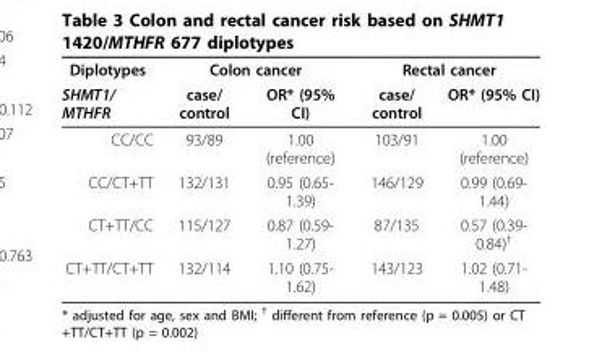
<table><thead><tr><td rowspan="2">Diplotypes SHMT1/ MTHFR</td><td colspan="2">Colon cancer</td><td colspan="2">Rectal cancer</td></tr><tr><td>case/ control</td><td>OR* (95% CI)</td><td>case/ control</td><td>OR* (95% CI)</td></tr></thead><tbody><tr><td>CC/CC</td><td>93/89</td><td>1.00 (reference)</td><td>103/91</td><td>1.00 (reference)</td></tr><tr><td>CC/CT+TT</td><td>132/131</td><td>0.95 (0.65- 1.39)</td><td>146/129</td><td>0.99 (0.69- 1.44)</td></tr><tr><td>CT+TT/CC</td><td>115/127</td><td>0.87 (0.59- 1.27)</td><td>87/135</td><td>0.57 (0.39- 0.84)<sup>†</sup></td></tr><tr><td>CT+TT/CT+TT</td><td>132/114</td><td>1.10 (0.75- 1.62)</td><td>143/123</td><td>1.02 (0.71- 1.48)</td></tr></tbody></table>